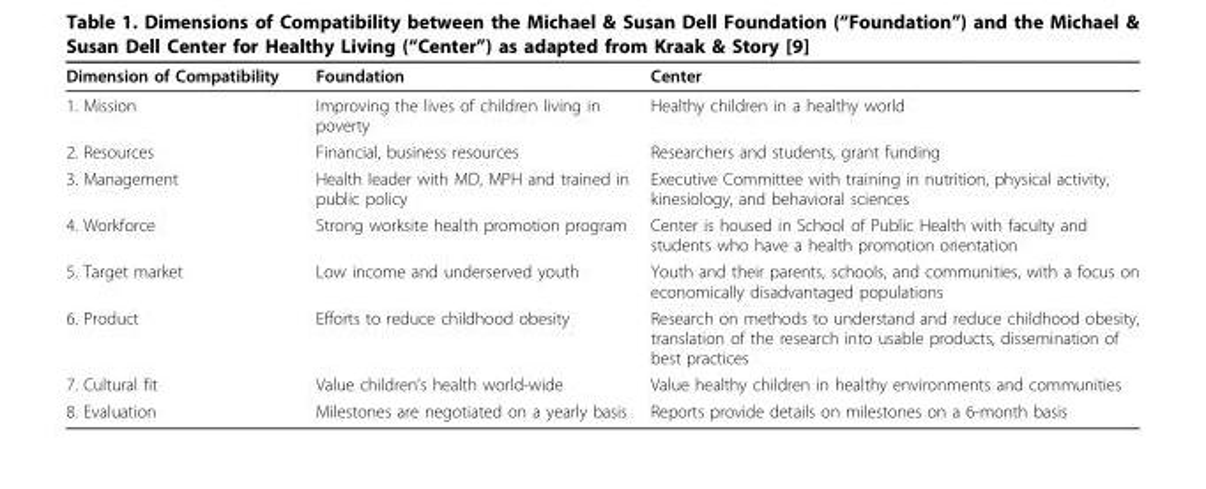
<table><tbody><tr><td>Dimension of Compatibility</td><td>Foundation</td><td>Center</td></tr><tr><td>1. Mission</td><td>Improving the lives of children living in poverty</td><td>Healthy children in a healthy world</td></tr><tr><td>2. Resources</td><td>Financial, business resources</td><td>Researchers and students, grant funding</td></tr><tr><td>3. Management</td><td>Health leader with MD, MPH and trained in public policy</td><td>Executive Committee with training in nutrition, physical activity, kinesiology, and behavioral sciences</td></tr><tr><td>4. Workforce</td><td>Strong worksite health promotion program</td><td>Center is housed in School of Public Health with faculty and students who have a health promotion orientation</td></tr><tr><td>5. Target market</td><td>Low income and underserved youth</td><td>Youth and their parents, schools, and communities, with a focus on economically disadvantaged populations</td></tr><tr><td>6. Product</td><td>Efforts to reduce childhood obesity</td><td>Research on methods to understand and reduce childhood obesity, translation of the research into usable products, dissemination of best practices</td></tr><tr><td>7. Cultural fit</td><td>Value children’s health world-wide</td><td>Value healthy children in healthy environments and communities</td></tr><tr><td>8. Evaluation</td><td>Milestones are negotiated on a yearly basis</td><td>Reports provide details on milestones on a 6-month basis</td></tr></tbody></table>